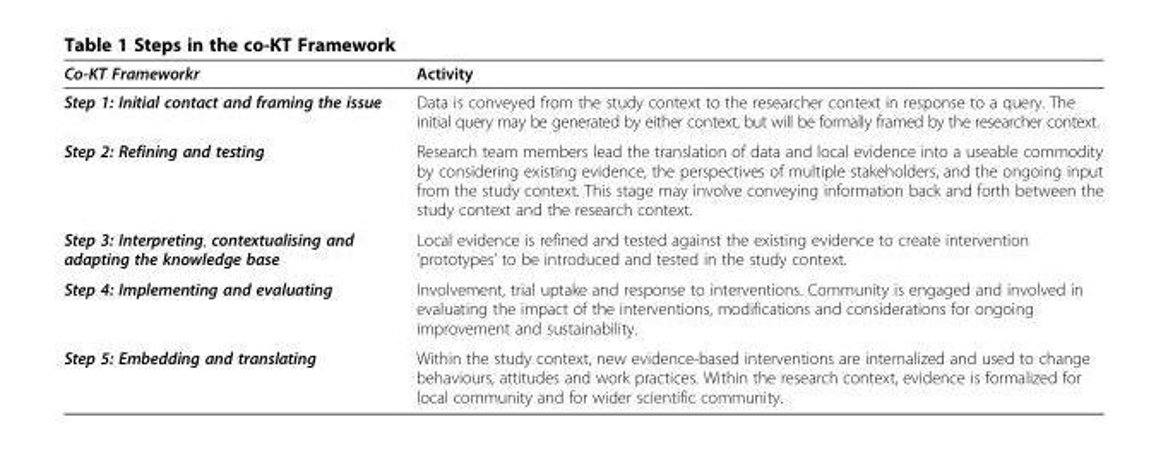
<table><thead><tr><td>Co-KT Frameworkr</td><td>Activity</td></tr></thead><tbody><tr><td>Step 1: Initial contact and framing the issue</td><td>Data is conveyed from the study context to the researcher context in response to a query. The initial query may be generated by either context, but will be formally framed by the researcher context.</td></tr><tr><td>Step 2: Refining and testing</td><td>Research team members lead the translation of data and local evidence into a useable commodity by considering existing evidence, the perspectives of multiple stakeholders, and the ongoing input from the study context. This stage may involve conveying information back and forth between the study context and the research context.</td></tr><tr><td>Step 3: Interpreting, contextualising and adapting the knowledge base</td><td>Local evidence is refined and tested against the existing evidence to create intervention ‘prototypes’ to be introduced and tested in the study context.</td></tr><tr><td>Step 4: Implementing and evaluating</td><td>Involvement, trial uptake and response to interventions. Community is engaged and involved in evaluating the impact of the interventions, modifications and considerations for ongoing improvement and sustainability.</td></tr><tr><td>Step 5: Embedding and translating</td><td>Within the study context, new evidence-based interventions are internalized and used to change behaviours, attitudes and work practices. Within the research context, evidence is formalized for local community and for wider scientific community.</td></tr></tbody></table>